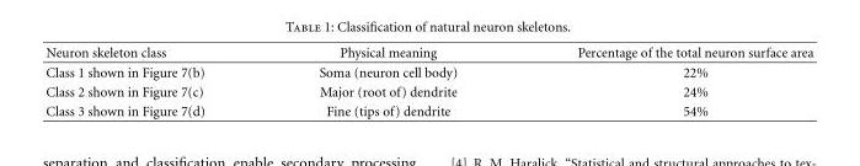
<table><thead><tr><td>Neuron skeleton class</td><td>Physical meaning</td><td>Percentage of the total neuron surface area</td></tr></thead><tbody><tr><td>Class 1 shown in Figure 7(b)</td><td>Soma (neuron cell body)</td><td>22%</td></tr><tr><td>Class 2 shown in Figure 7(c)</td><td>Major (root of) dendrite</td><td>24%</td></tr><tr><td>Class 3 shown in Figure 7(d)</td><td>Fine (tips of) dendrite</td><td>54%</td></tr></tbody></table>